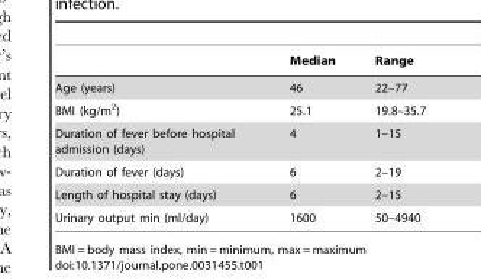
<table><thead><tr><td></td><td>Median</td><td>Range</td></tr></thead><tbody><tr><td>Age (years)</td><td>46</td><td>22–77</td></tr><tr><td>BMI (kg/m<sup>2</sup>)</td><td>25.1</td><td>19.8–35.7</td></tr><tr><td>Duration of fever before hospital admission (days)</td><td>4</td><td>1–15</td></tr><tr><td>Duration of fever (days)</td><td>6</td><td>2–19</td></tr><tr><td>Length of hospital stay (days)</td><td>6</td><td>2–15</td></tr><tr><td>Urinary output min (ml/day)</td><td>1600</td><td>50–4940</td></tr></tbody></table>